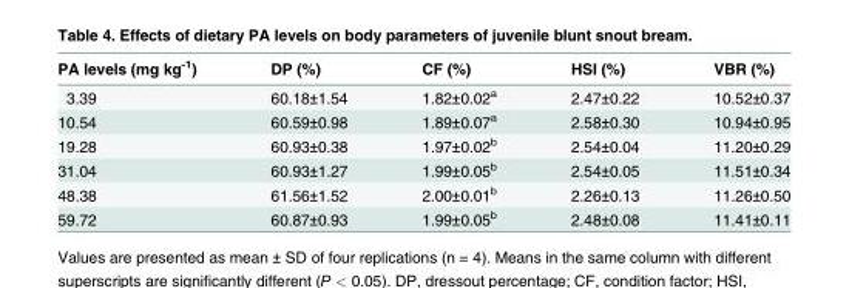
<table><thead><tr><td>PA levels (mg kg<sup>-1</sup>)</td><td>DP (%)</td><td>CF (%)</td><td>HSI (%)</td><td>VBR (%)</td></tr></thead><tbody><tr><td>3.39</td><td>60.18±1.54</td><td>1.82±0.02<sup>a</sup></td><td>2.47±0.22</td><td>10.52±0.37</td></tr><tr><td>10.54</td><td>60.59±0.98</td><td>1.89±0.07<sup>a</sup></td><td>2.58±0.30</td><td>10.94±0.95</td></tr><tr><td>19.28</td><td>60.93±0.38</td><td>1.97±0.02<sup>b</sup></td><td>2.54±0.04</td><td>11.20±0.29</td></tr><tr><td>31.04</td><td>60.93±1.27</td><td>1.99±0.05<sup>b</sup></td><td>2.54±0.05</td><td>11.51±0.34</td></tr><tr><td>48.38</td><td>61.56±1.52</td><td>2.00±0.01<sup>b</sup></td><td>2.26±0.13</td><td>11.26±0.50</td></tr><tr><td>59.72</td><td>60.87±0.93</td><td>1.99±0.05<sup>b</sup></td><td>2.48±0.08</td><td>11.41±0.11</td></tr></tbody></table>